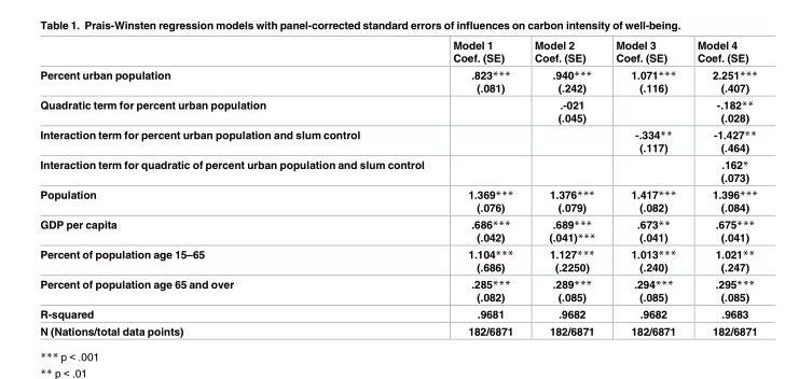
<table><thead><tr><td></td><td>Model 1 Coef. (SE)</td><td>Model 2 Coef. (SE)</td><td>Model 3 Coef. (SE)</td><td>Model 4 Coef. (SE)</td></tr></thead><tbody><tr><td>Percent urban population</td><td>.823*** (.081)</td><td>.940*** (.242)</td><td>1.071*** (.116)</td><td>2.251*** (.407)</td></tr><tr><td>Quadratic term for percent urban population</td><td></td><td>.-021 (.045)</td><td></td><td>-.182** (.028)</td></tr><tr><td>Interaction term for percent urban population and slum control</td><td></td><td></td><td>-.334** (.117)</td><td>-1.427** (.464)</td></tr><tr><td>Interaction term for quadratic of percent urban population and slum control</td><td></td><td></td><td></td><td>.162* (.073)</td></tr><tr><td>Population</td><td>1.369*** (.076)</td><td>1.376*** (.079)</td><td>1.417*** (.082)</td><td>1.396*** (.084)</td></tr><tr><td>GDP per capita</td><td>.686*** (.042)</td><td>.689*** (.041)***</td><td>.673** (.041)</td><td>.675*** (.041)</td></tr><tr><td>Percent of population age 15–65</td><td>1.104*** (.686)</td><td>1.127*** (.2250)</td><td>1.013*** (.240)</td><td>1.021** (.247)</td></tr><tr><td>Percent of population age 65 and over</td><td>.285*** (.082)</td><td>.289*** (.085)</td><td>.294*** (.085)</td><td>.295*** (.085)</td></tr><tr><td>R-squared</td><td>.9681</td><td>.9682</td><td>.9682</td><td>.9683</td></tr><tr><td>N (Nations/total data points)</td><td>182/6871</td><td>182/6871</td><td>182/6871</td><td>182/6871</td></tr></tbody></table>